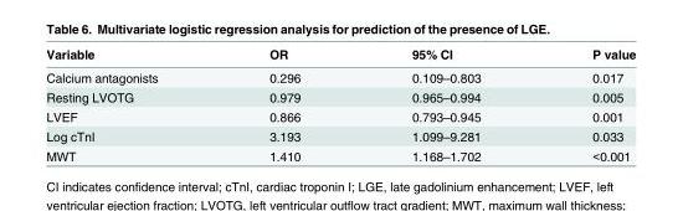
<table><thead><tr><td>Variable</td><td>OR</td><td>95% CI</td><td>P value</td></tr></thead><tbody><tr><td>Calcium antagonists</td><td>0.296</td><td>0.109–0.803</td><td>0.017</td></tr><tr><td>Resting LVOTG</td><td>0.979</td><td>0.965–0.994</td><td>0.005</td></tr><tr><td>LVEF</td><td>0.866</td><td>0.793–0.945</td><td>0.001</td></tr><tr><td>Log cTnI</td><td>3.193</td><td>1.099–9.281</td><td>0.033</td></tr><tr><td>MWT</td><td>1.410</td><td>1.168–1.702</td><td>&lt;0.001</td></tr></tbody></table>